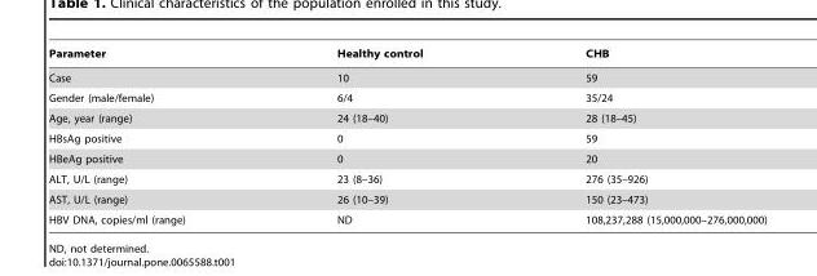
<table><thead><tr><td>Parameter</td><td>Healthy control</td><td>CHB</td></tr></thead><tbody><tr><td>Case</td><td>10</td><td>59</td></tr><tr><td>Gender (male/female)</td><td>6/4</td><td>35/24</td></tr><tr><td>Age, year (range)</td><td>24 (18–40)</td><td>28 (18–45)</td></tr><tr><td>HBsAg positive</td><td>0</td><td>59</td></tr><tr><td>HBeAg positive</td><td>0</td><td>20</td></tr><tr><td>ALT, U/L (range)</td><td>23 (8–36)</td><td>276 (35–926)</td></tr><tr><td>AST, U/L (range)</td><td>26 (10–39)</td><td>150 (23–473)</td></tr><tr><td>HBV DNA, copies/ml (range)</td><td>ND</td><td>108,237,288 (15,000,000–276,000,000)</td></tr></tbody></table>